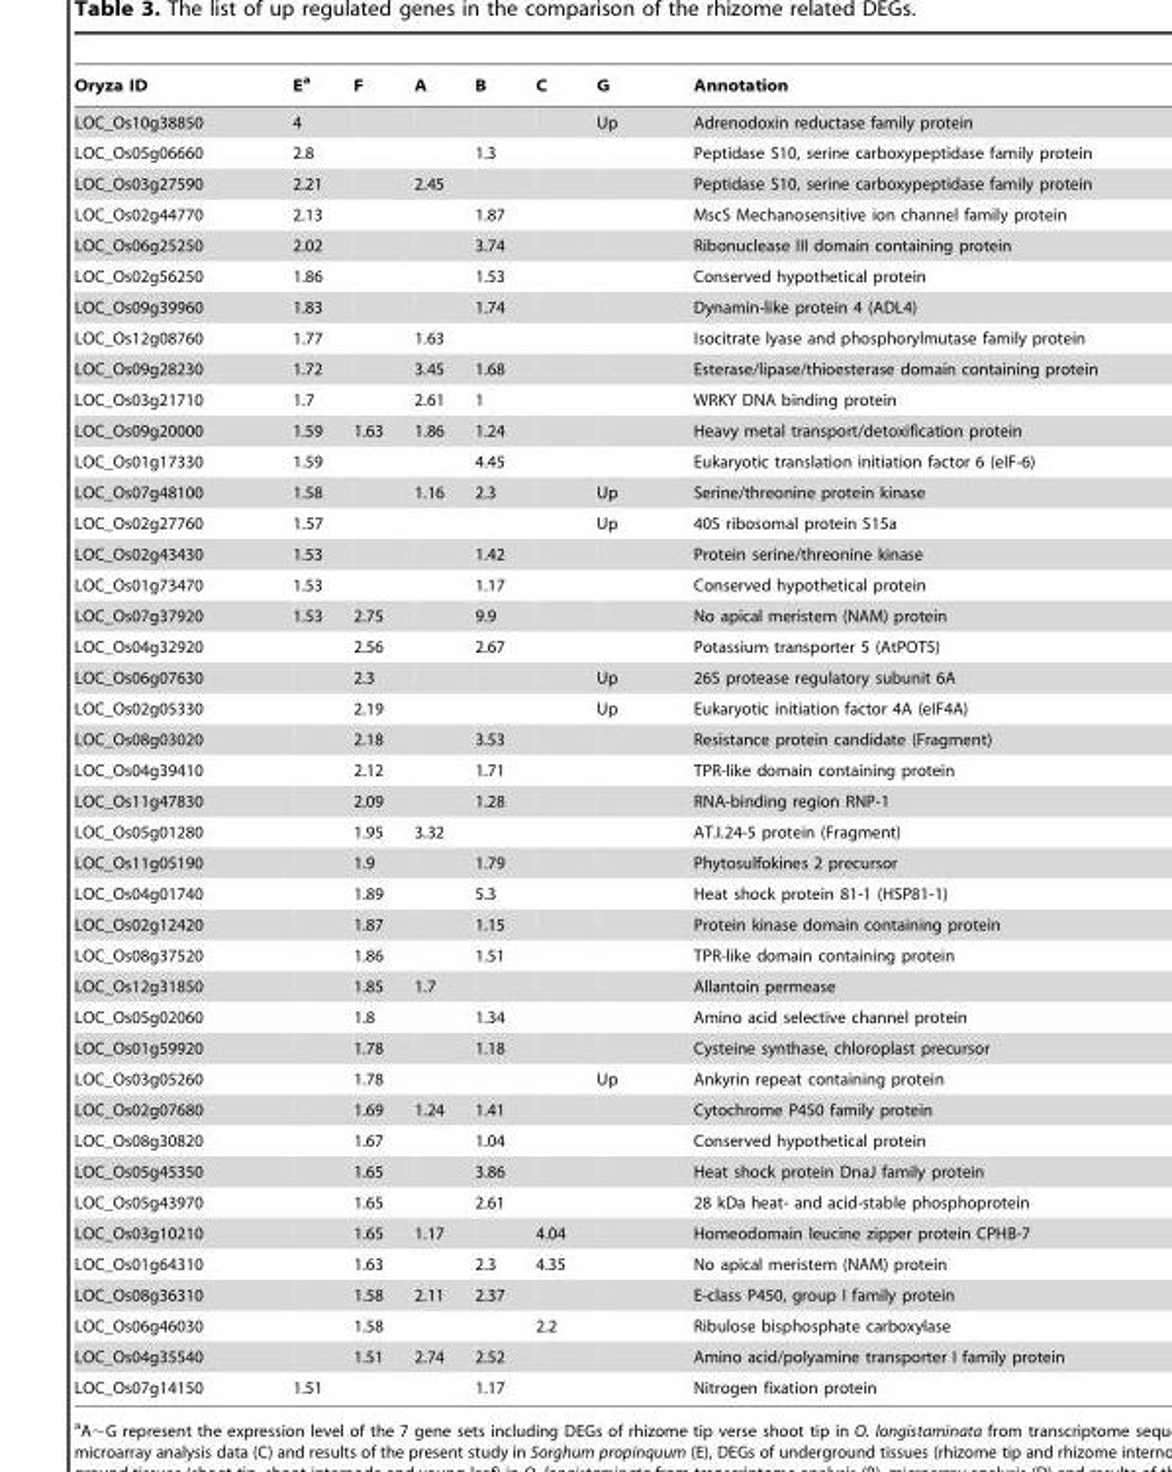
<table><thead><tr><td>Oryza ID</td><td>E<sup>a</sup></td><td>F</td><td>A</td><td>B</td><td>C</td><td>G</td><td>Annotation</td></tr></thead><tbody><tr><td>LOC_Os10g38850</td><td>4</td><td></td><td></td><td></td><td></td><td>Up</td><td>Adrenodoxin reductase family protein</td></tr><tr><td>LOC_Os05g06660</td><td>2.8</td><td></td><td></td><td>1.3</td><td></td><td></td><td>Peptidase S10, serine carboxypeptidase family protein</td></tr><tr><td>LOC_Os03g27590</td><td>2.21</td><td></td><td>2.45</td><td></td><td></td><td></td><td>Peptidase S10, serine carboxypeptidase family protein</td></tr><tr><td>LOC_Os02g44770</td><td>2.13</td><td></td><td></td><td>1.87</td><td></td><td></td><td>MscS Mechanosensitive ion channel family protein</td></tr><tr><td>LOC_Os06g25250</td><td>2.02</td><td></td><td></td><td>3.74</td><td></td><td></td><td>Ribonuclease III domain containing protein</td></tr><tr><td>LOC_Os02g56250</td><td>1.86</td><td></td><td></td><td>1.53</td><td></td><td></td><td>Conserved hypothetical protein</td></tr><tr><td>LOC_Os09g39960</td><td>1.83</td><td></td><td></td><td>1.74</td><td></td><td></td><td>Dynamin-like protein 4 (ADL4)</td></tr><tr><td>LOC_Os12g08760</td><td>1.77</td><td></td><td>1.63</td><td></td><td></td><td></td><td>Isocitrate lyase and phosphorylmutase family protein</td></tr><tr><td>LOC_Os09g28230</td><td>1.72</td><td></td><td>3.45</td><td>1.68</td><td></td><td></td><td>Esterase/lipase/thioesterase domain containing protein</td></tr><tr><td>LOC_Os03g21710</td><td>1.7</td><td></td><td>2.61</td><td>1</td><td></td><td></td><td>WRKY DNA binding protein</td></tr><tr><td>LOC_Os09g20000</td><td>1.59</td><td>1.63</td><td>1.86</td><td>1.24</td><td></td><td></td><td>Heavy metal transport/detoxification protein</td></tr><tr><td>LOC_Os01g17330</td><td>1.59</td><td></td><td></td><td>4.45</td><td></td><td></td><td>Eukaryotic translation initiation factor 6 (eIF-6)</td></tr><tr><td>LOC_Os07g48100</td><td>1.58</td><td></td><td>1.16</td><td>2.3</td><td></td><td>Up</td><td>Serine/threonine protein kinase</td></tr><tr><td>LOC_Os02g27760</td><td>1.57</td><td></td><td></td><td></td><td></td><td>Up</td><td>40S ribosomal protein S15a</td></tr><tr><td>LOC_Os02g43430</td><td>1.53</td><td></td><td></td><td>1.42</td><td></td><td></td><td>Protein serine/threonine kinase</td></tr><tr><td>LOC_Os01g73470</td><td>1.53</td><td></td><td></td><td>1.17</td><td></td><td></td><td>Conserved hypothetical protein</td></tr><tr><td>LOC_Os07g37920</td><td>1.53</td><td>2.75</td><td></td><td>9.9</td><td></td><td></td><td>No apical meristem (NAM) protein</td></tr><tr><td>LOC_Os04g32920</td><td></td><td>2.56</td><td></td><td>2.67</td><td></td><td></td><td>Potassium transporter 5 (AtPOT5)</td></tr><tr><td>LOC_Os06g07630</td><td></td><td>2.3</td><td></td><td></td><td></td><td>Up</td><td>26S protease regulatory subunit 6A</td></tr><tr><td>LOC_Os02g05330</td><td></td><td>2.19</td><td></td><td></td><td></td><td>Up</td><td>Eukaryotic initiation factor 4A (eIF4A)</td></tr><tr><td>LOC_Os08g03020</td><td></td><td>2.18</td><td></td><td>3.53</td><td></td><td></td><td>Resistance protein candidate (Fragment)</td></tr><tr><td>LOC_Os04g39410</td><td></td><td>2.12</td><td></td><td>1.71</td><td></td><td></td><td>TPR-like domain containing protein</td></tr><tr><td>LOC_Os11g47830</td><td></td><td>2.09</td><td></td><td>1.28</td><td></td><td></td><td>RNA-binding region RNP-1</td></tr><tr><td>LOC_Os05g01280</td><td></td><td>1.95</td><td>3.32</td><td></td><td></td><td></td><td>AT.I.24-5 protein (Fragment)</td></tr><tr><td>LOC_Os11g05190</td><td></td><td>1.9</td><td></td><td>1.79</td><td></td><td></td><td>Phytosulfokines 2 precursor</td></tr><tr><td>LOC_Os04g01740</td><td></td><td>1.89</td><td></td><td>5.3</td><td></td><td></td><td>Heat shock protein 81-1 (HSP81-1)</td></tr><tr><td>LOC_Os02g12420</td><td></td><td>1.87</td><td></td><td>1.15</td><td></td><td></td><td>Protein kinase domain containing protein</td></tr><tr><td>LOC_Os08g37520</td><td></td><td>1.86</td><td></td><td>1.51</td><td></td><td></td><td>TPR-like domain containing protein</td></tr><tr><td>LOC_Os12g31850</td><td></td><td>1.85</td><td>1.7</td><td></td><td></td><td></td><td>Allantoin permease</td></tr><tr><td>LOC_Os05g02060</td><td></td><td>1.8</td><td></td><td>1.34</td><td></td><td></td><td>Amino acid selective channel protein</td></tr><tr><td>LOC_Os01g59920</td><td></td><td>1.78</td><td></td><td>1.18</td><td></td><td></td><td>Cysteine synthase, chloroplast precursor</td></tr><tr><td>LOC_Os03g05260</td><td></td><td>1.78</td><td></td><td></td><td></td><td>Up</td><td>Ankyrin repeat containing protein</td></tr><tr><td>LOC_Os02g07680</td><td></td><td>1.69</td><td>1.24</td><td>1.41</td><td></td><td></td><td>Cytochrome P450 family protein</td></tr><tr><td>LOC_Os08g30820</td><td></td><td>1.67</td><td></td><td>1.04</td><td></td><td></td><td>Conserved hypothetical protein</td></tr><tr><td>LOC_Os05g45350</td><td></td><td>1.65</td><td></td><td>3.86</td><td></td><td></td><td>Heat shock protein DnaJ family protein</td></tr><tr><td>LOC_Os05g43970</td><td></td><td>1.65</td><td></td><td>2.61</td><td></td><td></td><td>28 kDa heat- and acid-stable phosphoprotein</td></tr><tr><td>LOC_Os03g10210</td><td></td><td>1.65</td><td>1.17</td><td></td><td>4.04</td><td></td><td>Homeodomain leucine zipper protein CPHB-7</td></tr><tr><td>LOC_Os01g64310</td><td></td><td>1.63</td><td></td><td>2.3</td><td>4.35</td><td></td><td>No apical meristem (NAM) protein</td></tr><tr><td>LOC_Os08g36310</td><td></td><td>1.58</td><td>2.11</td><td>2.37</td><td></td><td></td><td>E-class P450, group I family protein</td></tr><tr><td>LOC_Os06g46030</td><td></td><td>1.58</td><td></td><td></td><td>2.2</td><td></td><td>Ribulose bisphosphate carboxylase</td></tr><tr><td>LOC_Os04g35540</td><td></td><td>1.51</td><td>2.74</td><td>2.52</td><td></td><td></td><td>Amino acid/polyamine transporter I family protein</td></tr><tr><td>LOC_Os07g14150</td><td>1.51</td><td></td><td></td><td>1.17</td><td></td><td></td><td>Nitrogen fixation protein</td></tr></tbody></table>